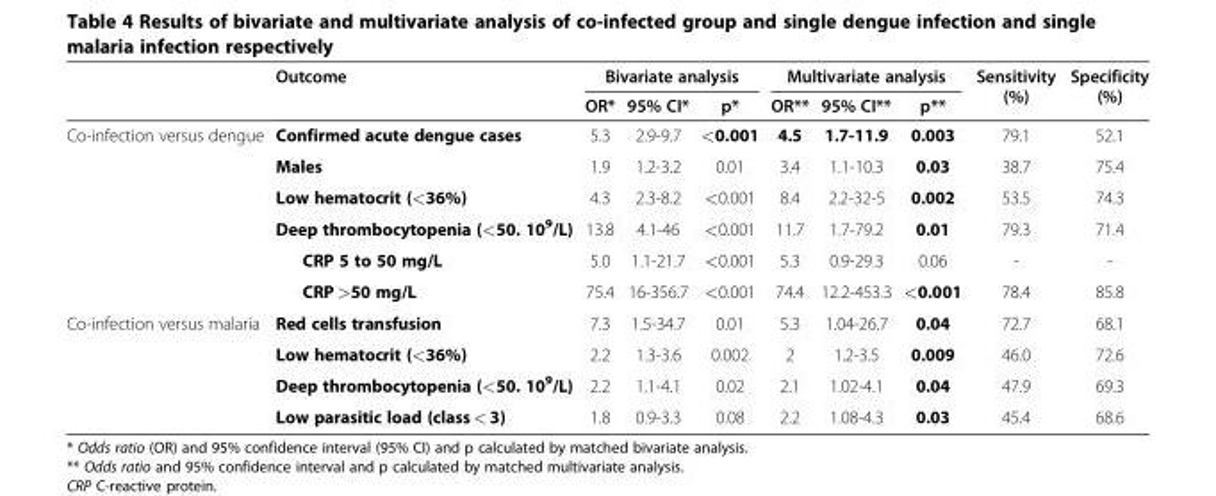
<table><thead><tr><td rowspan="2"></td><td rowspan="2">Outcome</td><td colspan="3">Bivariate analysis</td><td colspan="3">Multivariate analysis</td><td rowspan="2">Sensitivity (%)</td><td rowspan="2">Specificity (%)</td></tr><tr><td>OR*</td><td>95% CI*</td><td>p*</td><td>OR**</td><td>95% CI**</td><td>p**</td></tr></thead><tbody><tr><td rowspan="6">Co-infection versus dengue</td><td>Confirmed acute dengue cases</td><td>5.3</td><td>2.9-9.7</td><td>&lt;0.001</td><td>4.5</td><td>1.7-11.9</td><td>0.003</td><td>79.1</td><td>52.1</td></tr><tr><td>Males</td><td>1.9</td><td>1.2-3.2</td><td>0.01</td><td>3.4</td><td>1.1-10.3</td><td>0.03</td><td>38.7</td><td>75.4</td></tr><tr><td>Low hematocrit (&lt;36%)</td><td>4.3</td><td>2.3-8.2</td><td>&lt;0.001</td><td>8.4</td><td>2.2-32-5</td><td>0.002</td><td>53.5</td><td>74.3</td></tr><tr><td>Deep thrombocytopenia (&lt;50. 10<sup>9</sup>/L)</td><td>13.8</td><td>4.1-46</td><td>&lt;0.001</td><td>11.7</td><td>1.7-79.2</td><td>0.01</td><td>79.3</td><td>71.4</td></tr><tr><td>CRP 5 to 50 mg/L</td><td>5.0</td><td>1.1-21.7</td><td>&lt;0.001</td><td>5.3</td><td>0.9-29.3</td><td>0.06</td><td>-</td><td>-</td></tr><tr><td>CRP &gt;50 mg/L</td><td>75.4</td><td>16-356.7</td><td>&lt;0.001</td><td>74.4</td><td>12.2-453.3</td><td>&lt;0.001</td><td>78.4</td><td>85.8</td></tr><tr><td rowspan="4">Co-infection versus malaria</td><td>Red cells transfusion</td><td>7.3</td><td>1.5-34.7</td><td>0.01</td><td>5.3</td><td>1.04-26.7</td><td>0.04</td><td>72.7</td><td>68.1</td></tr><tr><td>Low hematocrit (&lt;36%)</td><td>2.2</td><td>1.3-3.6</td><td>0.002</td><td>2</td><td>1.2-3.5</td><td>0.009</td><td>46.0</td><td>72.6</td></tr><tr><td>Deep thrombocytopenia (&lt;50. 10<sup>9</sup>/L)</td><td>2.2</td><td>1.1-4.1</td><td>0.02</td><td>2.1</td><td>1.02-4.1</td><td>0.04</td><td>47.9</td><td>69.3</td></tr><tr><td>Low parasitic load (class &lt; 3)</td><td>1.8</td><td>0.9-3.3</td><td>0.08</td><td>2.2</td><td>1.08-4.3</td><td>0.03</td><td>45.4</td><td>68.6</td></tr></tbody></table>